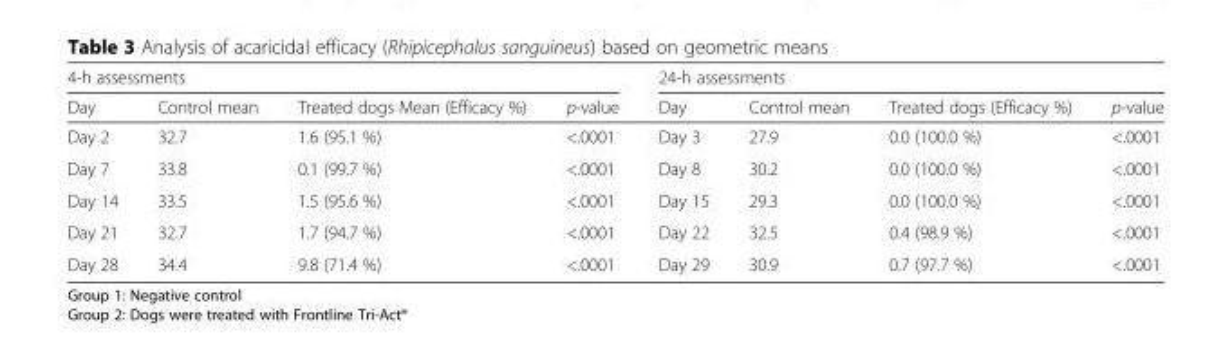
<table><thead><tr><td colspan="4">4-h assessments</td><td colspan="4">24-h assessments</td></tr><tr><td>Day</td><td>Control mean</td><td>Treated dogs Mean (Efficacy %)</td><td>p-value</td><td>Day</td><td>Control mean</td><td>Treated dogs (Efficacy %)</td><td>p-value</td></tr></thead><tbody><tr><td>Day 2</td><td>32.7</td><td>1.6 (95.1 %)</td><td>&lt;.0001</td><td>Day 3</td><td>27.9</td><td>0.0 (100.0 %)</td><td>&lt;.0001</td></tr><tr><td>Day 7</td><td>33.8</td><td>0.1 (99.7 %)</td><td>&lt;.0001</td><td>Day 8</td><td>30.2</td><td>0.0 (100.0 %)</td><td>&lt;.0001</td></tr><tr><td>Day 14</td><td>33.5</td><td>1.5 (95.6 %)</td><td>&lt;.0001</td><td>Day 15</td><td>29.3</td><td>0.0 (100.0 %)</td><td>&lt;.0001</td></tr><tr><td>Day 21</td><td>32.7</td><td>1.7 (94.7 %)</td><td>&lt;.0001</td><td>Day 22</td><td>32.5</td><td>0.4 (98.9 %)</td><td>&lt;.0001</td></tr><tr><td>Day 28</td><td>34.4</td><td>9.8 (71.4 %)</td><td>&lt;.0001</td><td>Day 29</td><td>30.9</td><td>0.7 (97.7 %)</td><td>&lt;.0001</td></tr></tbody></table>